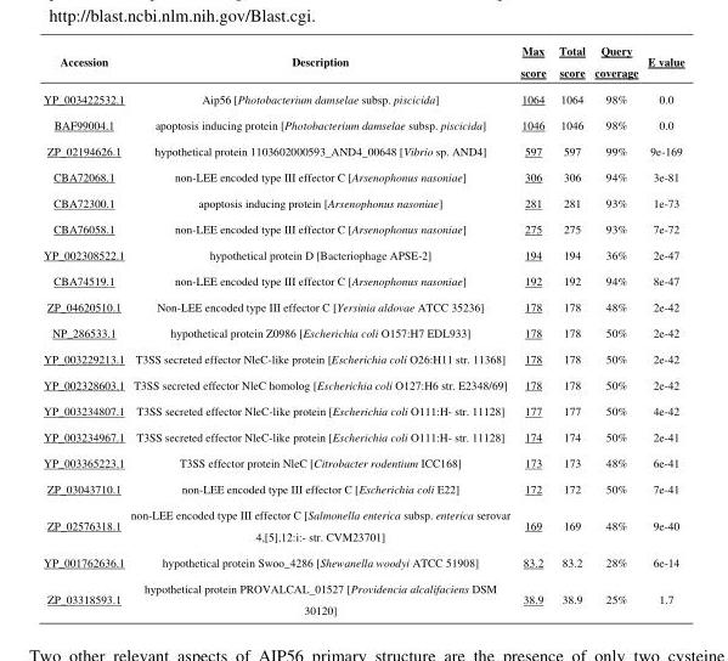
<table><thead><tr><td>Accession</td><td>Description</td><td>Max score</td><td>Total score</td><td>Query coverage</td><td>E value</td></tr></thead><tbody><tr><td>YP_003422532.1</td><td>Aip56 [Photobacterium damselae subsp. piscicida]</td><td>1064</td><td>1064</td><td>98%</td><td>0.0</td></tr><tr><td>BAF99004.1</td><td>apoptosis inducing protein [Photobacterium damselae subsp. piscicida]</td><td>1046</td><td>1046</td><td>98%</td><td>0.0</td></tr><tr><td>ZP_02194626.1</td><td>hypothetical protein 1103602000593_AND4_00648 [Vibrio sp. AND4]</td><td>597</td><td>597</td><td>99%</td><td>9e-169</td></tr><tr><td>CBA72068.1</td><td>non-LEE encoded type III effector C [Arsenophonus nasoniae]</td><td>306</td><td>306</td><td>94%</td><td>3e-81</td></tr><tr><td>CBA72300.1</td><td>apoptosis inducing protein [Arsenophonus nasoniae]</td><td>281</td><td>281</td><td>93%</td><td>1e-73</td></tr><tr><td>CBA76058.1</td><td>non-LEE encoded type III effector C [Arsenophonus nasoniae]</td><td>275</td><td>275</td><td>93%</td><td>7e-72</td></tr><tr><td>YP_002308522.1</td><td>hypothetical protein D [Bacteriophage APSE-2]</td><td>194</td><td>194</td><td>36%</td><td>2e-47</td></tr><tr><td>CBA74519.1</td><td>non-LEE encoded type III effector C [Arsenophonus nasoniae]</td><td>192</td><td>192</td><td>94%</td><td>8e-47</td></tr><tr><td>ZP_04620510.1</td><td>Non-LEE encoded type III effector C [Yersinia aldovae ATCC 35236]</td><td>178</td><td>178</td><td>48%</td><td>2e-42</td></tr><tr><td>NP_286533.1</td><td>hypothetical protein Z0986 [Escherichia coli O157:H7 EDL933]</td><td>178</td><td>178</td><td>50%</td><td>2e-42</td></tr><tr><td>YP_003229213.1</td><td>T3SS secreted effector NleC-like protein [Escherichia coli O26:H11 str. 11368]</td><td>178</td><td>178</td><td>50%</td><td>2e-42</td></tr><tr><td>YP_002328603.1</td><td>T3SS secreted effector NleC homolog [Escherichia coli O127:H6 str. E2348/69]</td><td>178</td><td>178</td><td>50%</td><td>2e-42</td></tr><tr><td>YP_003234807.1</td><td>T3SS secreted effector NleC-like protein [Escherichia coli O111:H- str. 11128]</td><td>177</td><td>177</td><td>50%</td><td>4e-42</td></tr><tr><td>YP_003234967.1</td><td>T3SS secreted effector NleC-like protein [Escherichia coli O111:H- str. 11128]</td><td>174</td><td>174</td><td>50%</td><td>2e-41</td></tr><tr><td>YP_003365223.1</td><td>T3SS effector protein NleC [Citrobacter rodentium ICC168]</td><td>173</td><td>173</td><td>48%</td><td>6e-41</td></tr><tr><td>ZP_03043710.1</td><td>non-LEE encoded type III effector C [Escherichia coli E22]</td><td>172</td><td>172</td><td>50%</td><td>7e-41</td></tr><tr><td>ZP_02576318.1</td><td>non-LEE encoded type III effector C [Salmonella enterica subsp. enterica serovar 4,[5],12:i:- str. CVM23701]</td><td>169</td><td>169</td><td>48%</td><td>9e-40</td></tr><tr><td>YP_001762636.1</td><td>hypothetical protein Swoo_4286 [Shewanella woodyi ATCC 51908]</td><td>83.2</td><td>83.2</td><td>28%</td><td>6e-14</td></tr><tr><td>ZP_03318593.1</td><td>hypothetical protein PROVALCAL_01527 [Providencia alcalifaciens DSM 30120]</td><td>38.9</td><td>38.9</td><td>25%</td><td>1.7</td></tr></tbody></table>